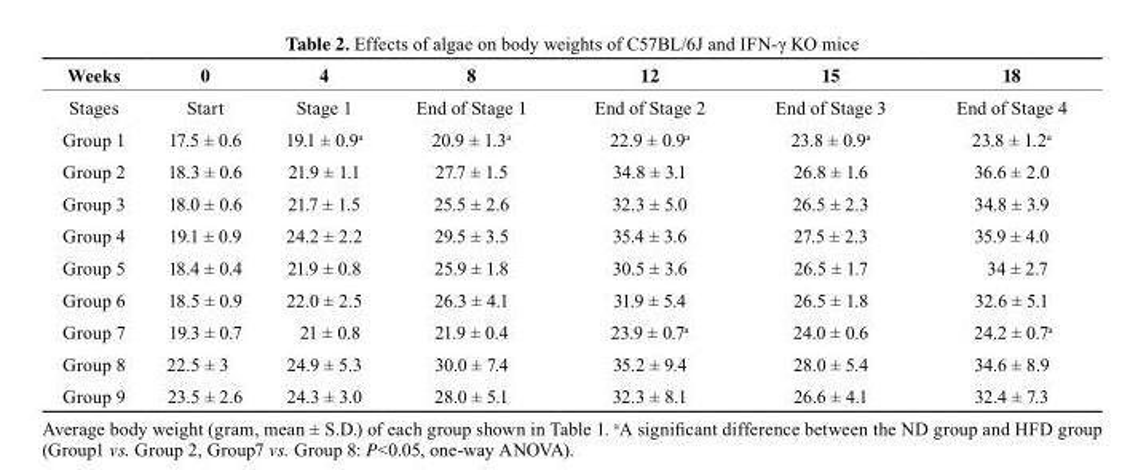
<table><thead><tr><td>Weeks</td><td>0</td><td>4</td><td>8</td><td>12</td><td>15</td><td>18</td></tr></thead><tbody><tr><td>Stages</td><td>Start</td><td>Stage 1</td><td>End of Stage 1</td><td>End of Stage 2</td><td>End of Stage 3</td><td>End of Stage 4</td></tr><tr><td>Group 1</td><td>17.5 ± 0.6</td><td>19.1 ± 0.9<sup>a</sup></td><td>20.9 ± 1.3<sup>a</sup></td><td>22.9 ± 0.9<sup>a</sup></td><td>23.8 ± 0.9<sup>a</sup></td><td>23.8 ± 1.2<sup>a</sup></td></tr><tr><td>Group 2</td><td>18.3 ± 0.6</td><td>21.9 ± 1.1</td><td>27.7 ± 1.5</td><td>34.8 ± 3.1</td><td>26.8 ± 1.6</td><td>36.6 ± 2.0</td></tr><tr><td>Group 3</td><td>18.0 ± 0.6</td><td>21.7 ± 1.5</td><td>25.5 ± 2.6</td><td>32.3 ± 5.0</td><td>26.5 ± 2.3</td><td>34.8 ± 3.9</td></tr><tr><td>Group 4</td><td>19.1 ± 0.9</td><td>24.2 ± 2.2</td><td>29.5 ± 3.5</td><td>35.4 ± 3.6</td><td>27.5 ± 2.3</td><td>35.9 ± 4.0</td></tr><tr><td>Group 5</td><td>18.4 ± 0.4</td><td>21.9 ± 0.8</td><td>25.9 ± 1.8</td><td>30.5 ± 3.6</td><td>26.5 ± 1.7</td><td>34 ± 2.7</td></tr><tr><td>Group 6</td><td>18.5 ± 0.9</td><td>22.0 ± 2.5</td><td>26.3 ± 4.1</td><td>31.9 ± 5.4</td><td>26.5 ± 1.8</td><td>32.6 ± 5.1</td></tr><tr><td>Group 7</td><td>19.3 ± 0.7</td><td>21 ± 0.8</td><td>21.9 ± 0.4</td><td>23.9 ± 0.7<sup>a</sup></td><td>24.0 ± 0.6</td><td>24.2 ± 0.7<sup>a</sup></td></tr><tr><td>Group 8</td><td>22.5 ± 3</td><td>24.9 ± 5.3</td><td>30.0 ± 7.4</td><td>35.2 ± 9.4</td><td>28.0 ± 5.4</td><td>34.6 ± 8.9</td></tr><tr><td>Group 9</td><td>23.5 ± 2.6</td><td>24.3 ± 3.0</td><td>28.0 ± 5.1</td><td>32.3 ± 8.1</td><td>26.6 ± 4.1</td><td>32.4 ± 7.3</td></tr></tbody></table>